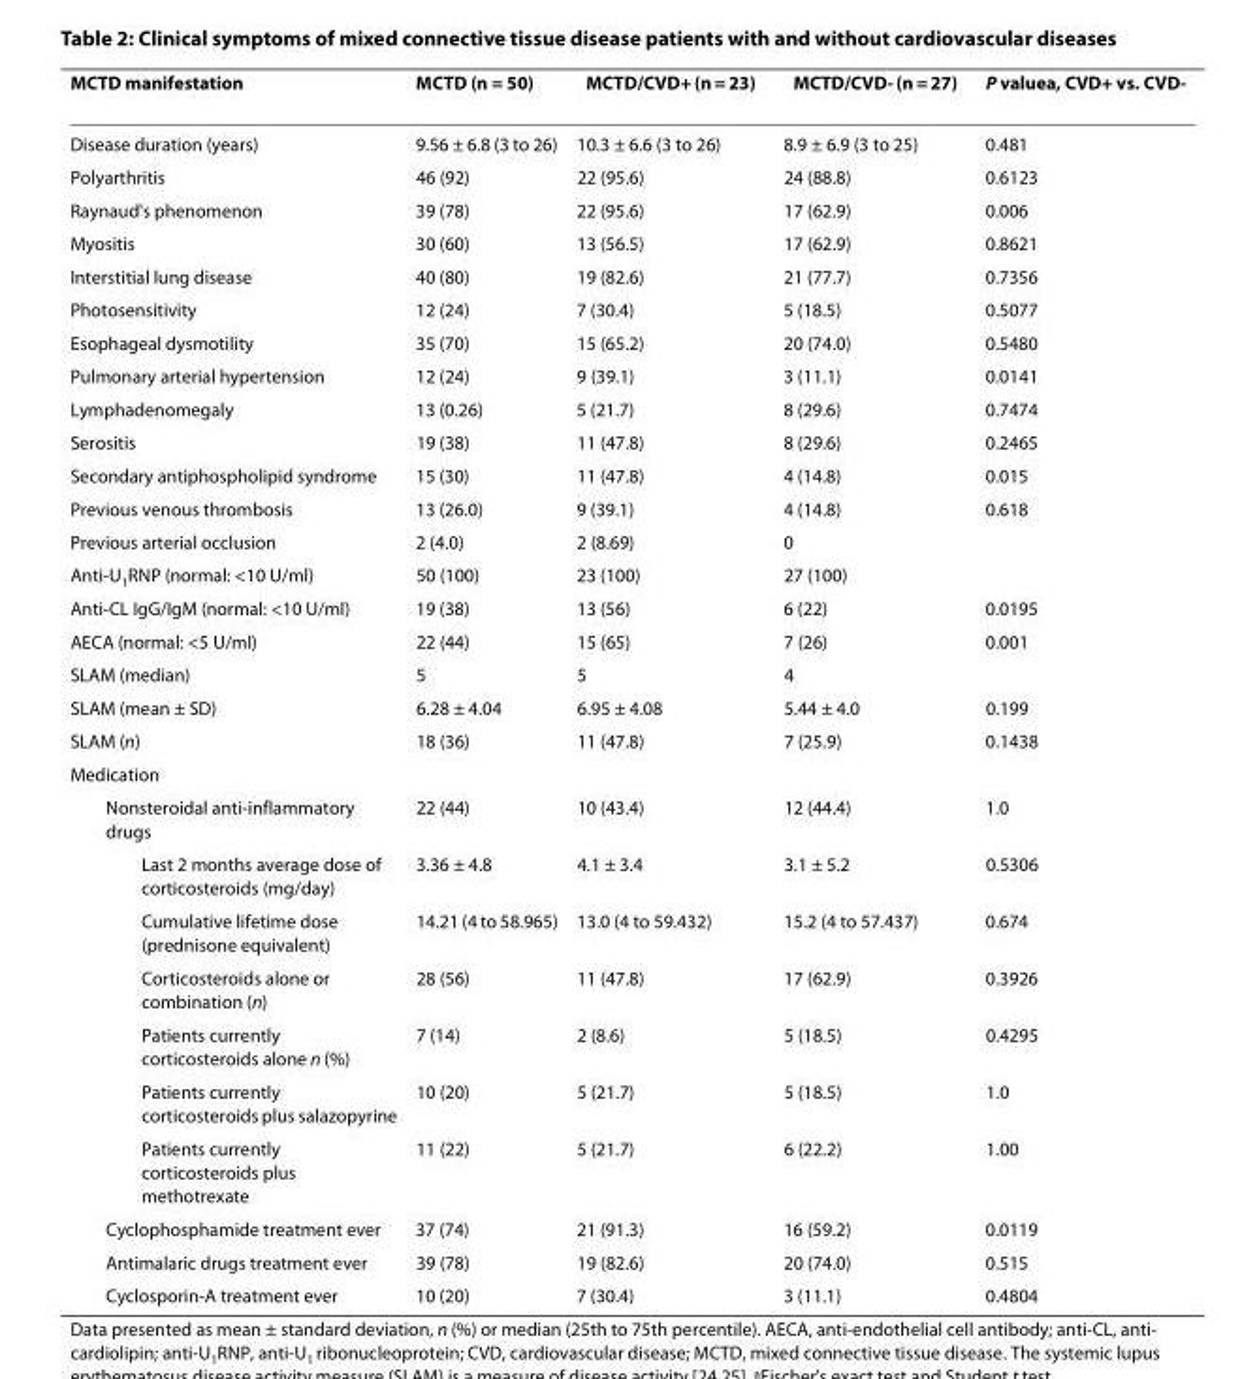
<table><thead><tr><td>MCTD manifestation</td><td>MCTD (n = 50)</td><td>MCTD/CVD<sup>+</sup> (n = 23)</td><td>MCTD/CVD<sup>-</sup> (n = 27)</td><td>P value<sup>a</sup>, CVD<sup>+</sup> vs. CVD<sup>-</sup></td></tr></thead><tbody><tr><td>Disease duration (years)</td><td>9.56 ± 6.8 (3 to 26)</td><td>10.3 ± 6.6 (3 to 26)</td><td>8.9 ± 6.9 (3 to 25)</td><td>0.481</td></tr><tr><td>Polyarthritis</td><td>46 (92)</td><td>22 (95.6)</td><td>24 (88.8)</td><td>0.6123</td></tr><tr><td>Raynaud&#x27;s phenomenon</td><td>39 (78)</td><td>22 (95.6)</td><td>17 (62.9)</td><td>0.006</td></tr><tr><td>Myositis</td><td>30 (60)</td><td>13 (56.5)</td><td>17 (62.9)</td><td>0.8621</td></tr><tr><td>Interstitial lung disease</td><td>40 (80)</td><td>19 (82.6)</td><td>21 (77.7)</td><td>0.7356</td></tr><tr><td>Photosensitivity</td><td>12 (24)</td><td>7 (30.4)</td><td>5 (18.5)</td><td>0.5077</td></tr><tr><td>Esophageal dysmotility</td><td>35 (70)</td><td>15 (65.2)</td><td>20 (74.0)</td><td>0.5480</td></tr><tr><td>Pulmonary arterial hypertension</td><td>12 (24)</td><td>9 (39.1)</td><td>3 (11.1)</td><td>0.0141</td></tr><tr><td>Lymphadenomegaly</td><td>13 (0.26)</td><td>5 (21.7)</td><td>8 (29.6)</td><td>0.7474</td></tr><tr><td>Serositis</td><td>19 (38)</td><td>11 (47.8)</td><td>8 (29.6)</td><td>0.2465</td></tr><tr><td>Secondary antiphospholipid syndrome</td><td>15 (30)</td><td>11 (47.8)</td><td>4 (14.8)</td><td>0.015</td></tr><tr><td>Previous venous thrombosis</td><td>13 (26.0)</td><td>9 (39.1)</td><td>4 (14.8)</td><td>0.618</td></tr><tr><td>Previous arterial occlusion</td><td>2 (4.0)</td><td>2 (8.69)</td><td>0</td><td></td></tr><tr><td>Anti-U<sub>1</sub>RNP (normal: &lt;10 U/ml)</td><td>50 (100)</td><td>23 (100)</td><td>27 (100)</td><td></td></tr><tr><td>Anti-CL IgG/IgM (normal: &lt;10 U/ml)</td><td>19 (38)</td><td>13 (56)</td><td>6 (22)</td><td>0.0195</td></tr><tr><td>AECA (normal: &lt;5 U/ml)</td><td>22 (44)</td><td>15 (65)</td><td>7 (26)</td><td>0.001</td></tr><tr><td>SLAM (median)</td><td>5</td><td>5</td><td>4</td><td></td></tr><tr><td>SLAM (mean ± SD)</td><td>6.28 ± 4.04</td><td>6.95 ± 4.08</td><td>5.44 ± 4.0</td><td>0.199</td></tr><tr><td>SLAM (n)</td><td>18 (36)</td><td>11 (47.8)</td><td>7 (25.9)</td><td>0.1438</td></tr><tr><td colspan="5">Medication</td></tr><tr><td>Nonsteroidal anti-inflammatory drugs</td><td>22 (44)</td><td>10 (43.4)</td><td>12 (44.4)</td><td>1.0</td></tr><tr><td>Last 2 months average dose of corticosteroids (mg/day)</td><td>3.36 ± 4.8</td><td>4.1 ± 3.4</td><td>3.1 ± 5.2</td><td>0.5306</td></tr><tr><td>Cumulative lifetime dose (prednisone equivalent)</td><td>14.21 (4 to 58.965)</td><td>13.0 (4 to 59.432)</td><td>15.2 (4 to 57.437)</td><td>0.674</td></tr><tr><td>Corticosteroids alone or combination (n)</td><td>28 (56)</td><td>11 (47.8)</td><td>17 (62.9)</td><td>0.3926</td></tr><tr><td>Patients currently corticosteroids alone n (%)</td><td>7 (14)</td><td>2 (8.6)</td><td>5 (18.5)</td><td>0.4295</td></tr><tr><td>Patients currently corticosteroids plus salazopyrine</td><td>10 (20)</td><td>5 (21.7)</td><td>5 (18.5)</td><td>1.0</td></tr><tr><td>Patients currently corticosteroids plus methotrexate</td><td>11 (22)</td><td>5 (21.7)</td><td>6 (22.2)</td><td>1.00</td></tr><tr><td>Cyclophosphamide treatment ever</td><td>37 (74)</td><td>21 (91.3)</td><td>16 (59.2)</td><td>0.0119</td></tr><tr><td>Antimalaric drugs treatment ever</td><td>39 (78)</td><td>19 (82.6)</td><td>20 (74.0)</td><td>0.515</td></tr><tr><td>Cyclosporin-A treatment ever</td><td>10 (20)</td><td>7 (30.4)</td><td>3 (11.1)</td><td>0.4804</td></tr></tbody></table>